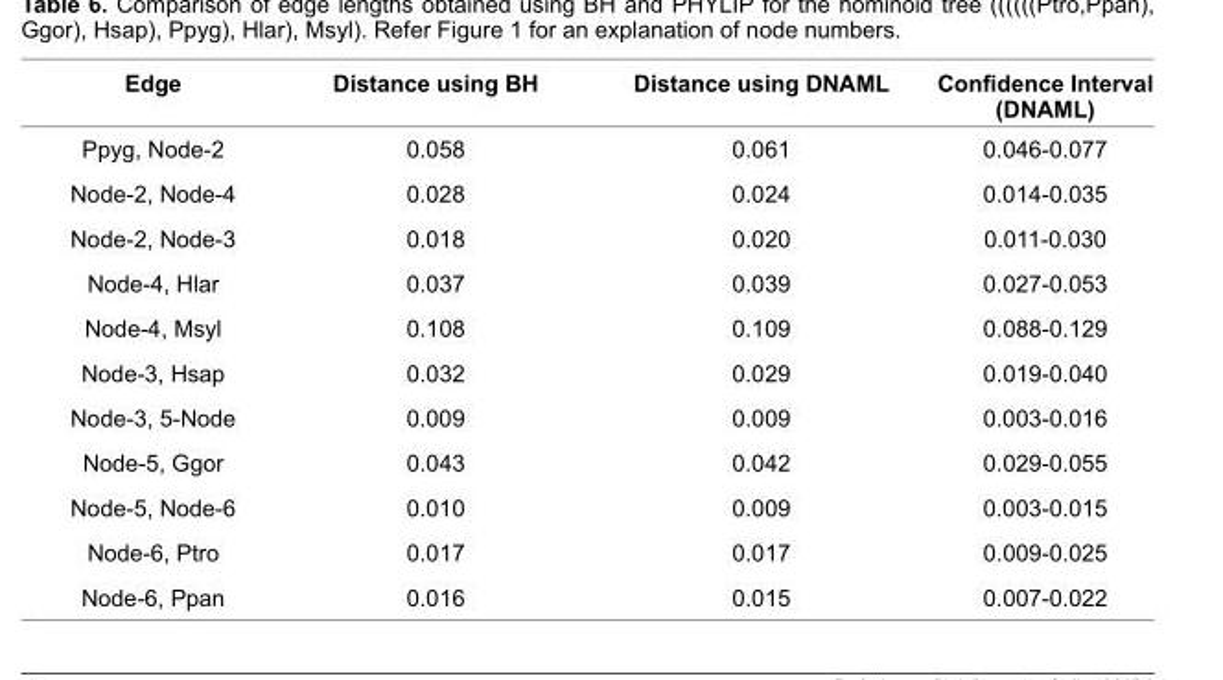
<table><thead><tr><td>Edge</td><td>Distance using BH</td><td>Distance using DNAML</td><td>Confi dence Interval (DNAML)</td></tr></thead><tbody><tr><td>Ppyg, Node-2</td><td>0.058</td><td>0.061</td><td>0.046-0.077</td></tr><tr><td>Node-2, Node-4</td><td>0.028</td><td>0.024</td><td>0.014-0.035</td></tr><tr><td>Node-2, Node-3</td><td>0.018</td><td>0.020</td><td>0.011-0.030</td></tr><tr><td>Node-4, Hlar</td><td>0.037</td><td>0.039</td><td>0.027-0.053</td></tr><tr><td>Node-4, Msyl</td><td>0.108</td><td>0.109</td><td>0.088-0.129</td></tr><tr><td>Node-3, Hsap</td><td>0.032</td><td>0.029</td><td>0.019-0.040</td></tr><tr><td>Node-3, 5-Node</td><td>0.009</td><td>0.009</td><td>0.003-0.016</td></tr><tr><td>Node-5, Ggor</td><td>0.043</td><td>0.042</td><td>0.029-0.055</td></tr><tr><td>Node-5, Node-6</td><td>0.010</td><td>0.009</td><td>0.003-0.015</td></tr><tr><td>Node-6, Ptro</td><td>0.017</td><td>0.017</td><td>0.009-0.025</td></tr><tr><td>Node-6, Ppan</td><td>0.016</td><td>0.015</td><td>0.007-0.022</td></tr></tbody></table>